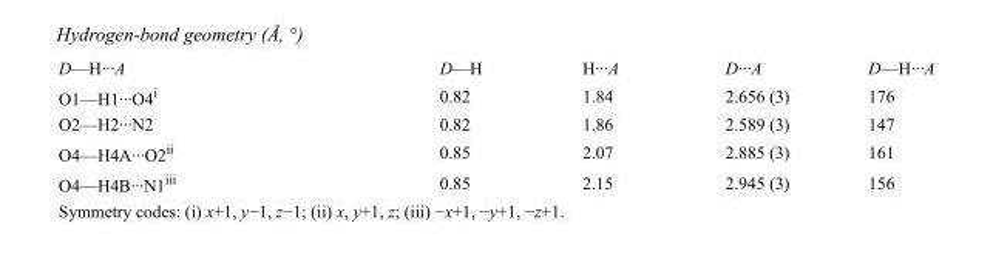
<table><tbody><tr><td>D—H···A</td><td>D—H</td><td>H···A</td><td>D···A</td><td>D—H···A</td></tr><tr><td>O1—H1···O4<sup>i</sup></td><td>0.82</td><td>1.84</td><td>2.656 (3)</td><td>176</td></tr><tr><td>O2—H2···N2</td><td>0.82</td><td>1.86</td><td>2.589 (3)</td><td>147</td></tr><tr><td>O4—H4A···O2<sup>ii</sup></td><td>0.85</td><td>2.07</td><td>2.885 (3)</td><td>161</td></tr><tr><td>O4—H4B···N1<sup>iii</sup></td><td>0.85</td><td>2.15</td><td>2.945 (3)</td><td>156</td></tr></tbody></table>